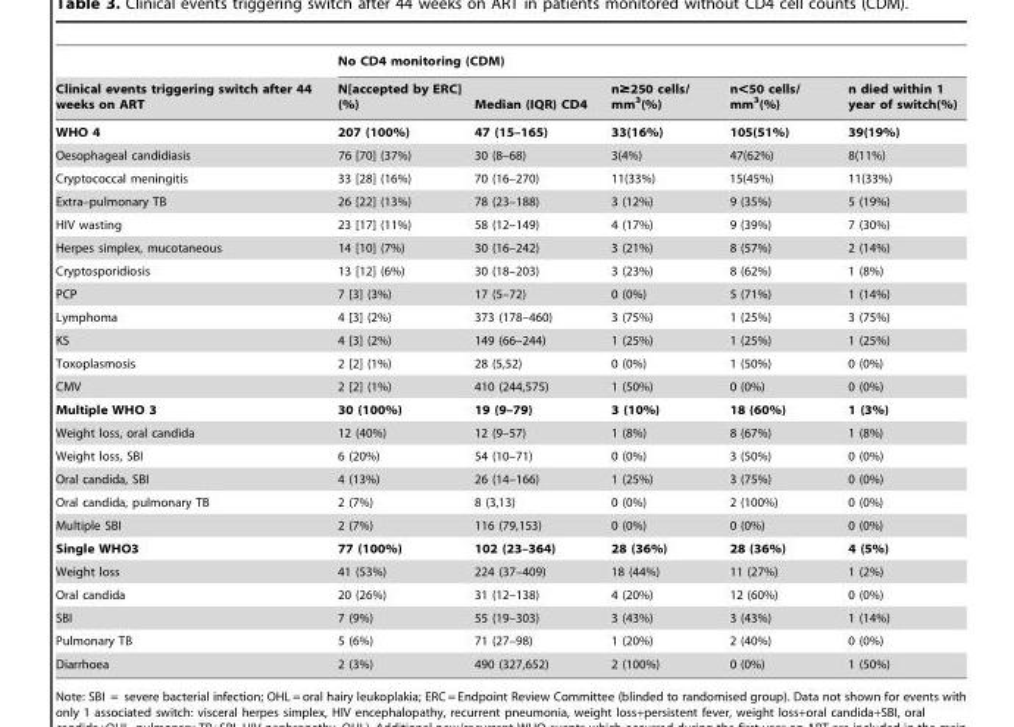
<table><thead><tr><td rowspan="2">Clinical events triggering switch after 44 weeks on ART</td><td colspan="5">No CD4 monitoring (CDM)</td></tr><tr><td>N[accepted by ERC] (%)</td><td>Median (IQR) CD4</td><td>n≥250 cells/ mm<sup>3</sup>(%)</td><td>n&lt;50 cells/ mm<sup>3</sup>(%)</td><td>n died within 1 year of switch(%)</td></tr></thead><tbody><tr><td>WHO 4</td><td>207 (100%)</td><td>47 (15–165)</td><td>33(16%)</td><td>105(51%)</td><td>39(19%)</td></tr><tr><td>Oesophageal candidiasis</td><td>76 [70] (37%)</td><td>30 (8–68)</td><td>3(4%)</td><td>47(62%)</td><td>8(11%)</td></tr><tr><td>Cryptococcal meningitis</td><td>33 [28] (16%)</td><td>70 (16–270)</td><td>11(33%)</td><td>15(45%)</td><td>11(33%)</td></tr><tr><td>Extra–pulmonary TB</td><td>26 [22] (13%)</td><td>78 (23–188)</td><td>3 (12%)</td><td>9 (35%)</td><td>5 (19%)</td></tr><tr><td>HIV wasting</td><td>23 [17] (11%)</td><td>58 (12–149)</td><td>4 (17%)</td><td>9 (39%)</td><td>7 (30%)</td></tr><tr><td>Herpes simplex, mucotaneous</td><td>14 [10] (7%)</td><td>30 (16–242)</td><td>3 (21%)</td><td>8 (57%)</td><td>2 (14%)</td></tr><tr><td>Cryptosporidiosis</td><td>13 [12] (6%)</td><td>30 (18–203)</td><td>3 (23%)</td><td>8 (62%)</td><td>1 (8%)</td></tr><tr><td>PCP</td><td>7 [3] (3%)</td><td>17 (5–72)</td><td>0 (0%)</td><td>5 (71%)</td><td>1 (14%)</td></tr><tr><td>Lymphoma</td><td>4 [3] (2%)</td><td>373 (178–460)</td><td>3 (75%)</td><td>1 (25%)</td><td>3 (75%)</td></tr><tr><td>KS</td><td>4 [3] (2%)</td><td>149 (66–244)</td><td>1 (25%)</td><td>1 (25%)</td><td>1 (25%)</td></tr><tr><td>Toxoplasmosis</td><td>2 [2] (1%)</td><td>28 (5,52)</td><td>0 (0%)</td><td>1 (50%)</td><td>0 (0%)</td></tr><tr><td>CMV</td><td>2 [2] (1%)</td><td>410 (244,575)</td><td>1 (50%)</td><td>0 (0%)</td><td>0 (0%)</td></tr><tr><td>Multiple WHO 3</td><td>30 (100%)</td><td>19 (9–79)</td><td>3 (10%)</td><td>18 (60%)</td><td>1 (3%)</td></tr><tr><td>Weight loss, oral candida</td><td>12 (40%)</td><td>12 (9–57)</td><td>1 (8%)</td><td>8 (67%)</td><td>1 (8%)</td></tr><tr><td>Weight loss, SBI</td><td>6 (20%)</td><td>54 (10–71)</td><td>0 (0%)</td><td>3 (50%)</td><td>0 (0%)</td></tr><tr><td>Oral candida, SBI</td><td>4 (13%)</td><td>26 (14–166)</td><td>1 (25%)</td><td>3 (75%)</td><td>0 (0%)</td></tr><tr><td>Oral candida, pulmonary TB</td><td>2 (7%)</td><td>8 (3,13)</td><td>0 (0%)</td><td>2 (100%)</td><td>0 (0%)</td></tr><tr><td>Multiple SBI</td><td>2 (7%)</td><td>116 (79,153)</td><td>0 (0%)</td><td>0 (0%)</td><td>0 (0%)</td></tr><tr><td>Single WHO3</td><td>77 (100%)</td><td>102 (23–364)</td><td>28 (36%)</td><td>28 (36%)</td><td>4 (5%)</td></tr><tr><td>Weight loss</td><td>41 (53%)</td><td>224 (37–409)</td><td>18 (44%)</td><td>11 (27%)</td><td>1 (2%)</td></tr><tr><td>Oral candida</td><td>20 (26%)</td><td>31 (12–138)</td><td>4 (20%)</td><td>12 (60%)</td><td>0 (0%)</td></tr><tr><td>SBI</td><td>7 (9%)</td><td>55 (19–303)</td><td>3 (43%)</td><td>3 (43%)</td><td>1 (14%)</td></tr><tr><td>Pulmonary TB</td><td>5 (6%)</td><td>71 (27–98)</td><td>1 (20%)</td><td>2 (40%)</td><td>0 (0%)</td></tr><tr><td>Diarrhoea</td><td>2 (3%)</td><td>490 (327,652)</td><td>2 (100%)</td><td>0 (0%)</td><td>1 (50%)</td></tr></tbody></table>